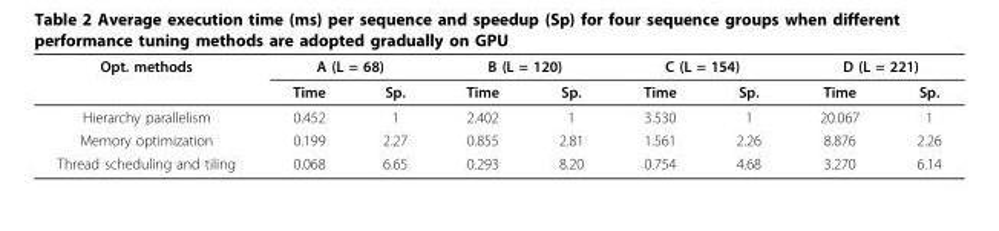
<table><thead><tr><td rowspan="2">Opt. methods</td><td colspan="2">A (L = 68)</td><td colspan="2">B (L = 120)</td><td colspan="2">C (L = 154)</td><td colspan="2">D (L = 221)</td></tr><tr><td>Time</td><td>Sp.</td><td>Time</td><td>Sp.</td><td>Time</td><td>Sp.</td><td>Time</td><td>Sp.</td></tr></thead><tbody><tr><td>Hierarchy parallelism</td><td>0.452</td><td>1</td><td>2.402</td><td>1</td><td>3.530</td><td>1</td><td>20.067</td><td>1</td></tr><tr><td>Memory optimization</td><td>0.199</td><td>2.27</td><td>0.855</td><td>2.81</td><td>1.561</td><td>2.26</td><td>8.876</td><td>2.26</td></tr><tr><td>Thread scheduling and tiling</td><td>0.068</td><td>6.65</td><td>0.293</td><td>8.20</td><td>0.754</td><td>4.68</td><td>3.270</td><td>6.14</td></tr></tbody></table>